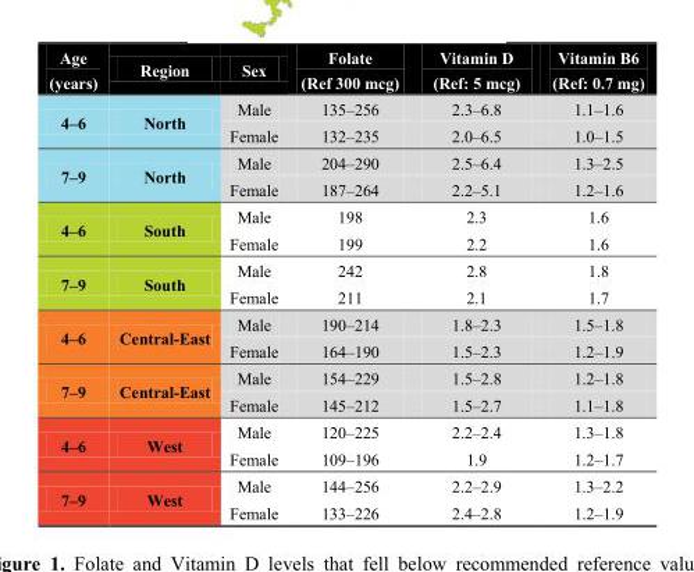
<table><thead><tr><td>Age (years)</td><td>Region</td><td>Sex</td><td>Folate (Ref 300 mcg)</td><td>Vitamin D (Ref: 5 mcg)</td><td>Vitamin B6 (Ref: 0.7 mg)</td></tr></thead><tbody><tr><td rowspan="2">4–6</td><td rowspan="2">North</td><td>Male</td><td>135–256</td><td>2.3–6.8</td><td>1.1–1.6</td></tr><tr><td>Female</td><td>132–235</td><td>2.0–6.5</td><td>1.0–1.5</td></tr><tr><td rowspan="2">7–9</td><td rowspan="2">North</td><td>Male</td><td>204–290</td><td>2.5–6.4</td><td>1.3–2.5</td></tr><tr><td>Female</td><td>187–264</td><td>2.2–5.1</td><td>1.2–1.6</td></tr><tr><td rowspan="2">4–6</td><td rowspan="2">South</td><td>Male</td><td>198</td><td>2.3</td><td>1.6</td></tr><tr><td>Female</td><td>199</td><td>2.2</td><td>1.6</td></tr><tr><td rowspan="2">7–9</td><td rowspan="2">South</td><td>Male</td><td>242</td><td>2.8</td><td>1.8</td></tr><tr><td>Female</td><td>211</td><td>2.1</td><td>1.7</td></tr><tr><td rowspan="2">4–6</td><td rowspan="2">Central-East</td><td>Male</td><td>190–214</td><td>1.8–2.3</td><td>1.5–1.8</td></tr><tr><td>Female</td><td>164–190</td><td>1.5–2.3</td><td>1.2–1.9</td></tr><tr><td rowspan="2">7–9</td><td rowspan="2">Central-East</td><td>Male</td><td>154–229</td><td>1.5–2.8</td><td>1.2–1.8</td></tr><tr><td>Female</td><td>145–212</td><td>1.5–2.7</td><td>1.1–1.8</td></tr><tr><td rowspan="2">4–6</td><td rowspan="2">West</td><td>Male</td><td>120–225</td><td>2.2–2.4</td><td>1.3–1.8</td></tr><tr><td>Female</td><td>109–196</td><td>1.9</td><td>1.2–1.7</td></tr><tr><td rowspan="2">7–9</td><td rowspan="2">West</td><td>Male</td><td>144–256</td><td>2.2–2.9</td><td>1.3–2.2</td></tr><tr><td>Female</td><td>133–226</td><td>2.4–2.8</td><td>1.2–1.9</td></tr></tbody></table>